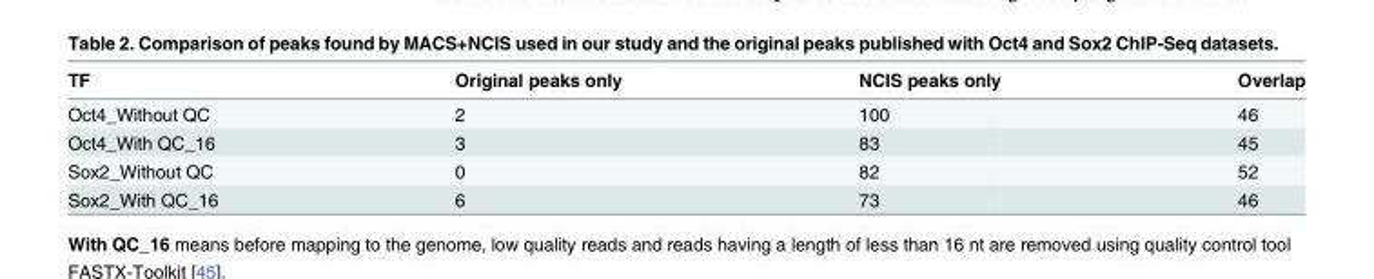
<table><thead><tr><td>TF</td><td>Original peaks only</td><td>NCIS peaks only</td><td>Overlap</td></tr></thead><tbody><tr><td>Oct4_Without QC</td><td>2</td><td>100</td><td>46</td></tr><tr><td>Oct4_With QC_16</td><td>3</td><td>83</td><td>45</td></tr><tr><td>Sox2_Without QC</td><td>0</td><td>82</td><td>52</td></tr><tr><td>Sox2_With QC_16</td><td>6</td><td>73</td><td>46</td></tr></tbody></table>